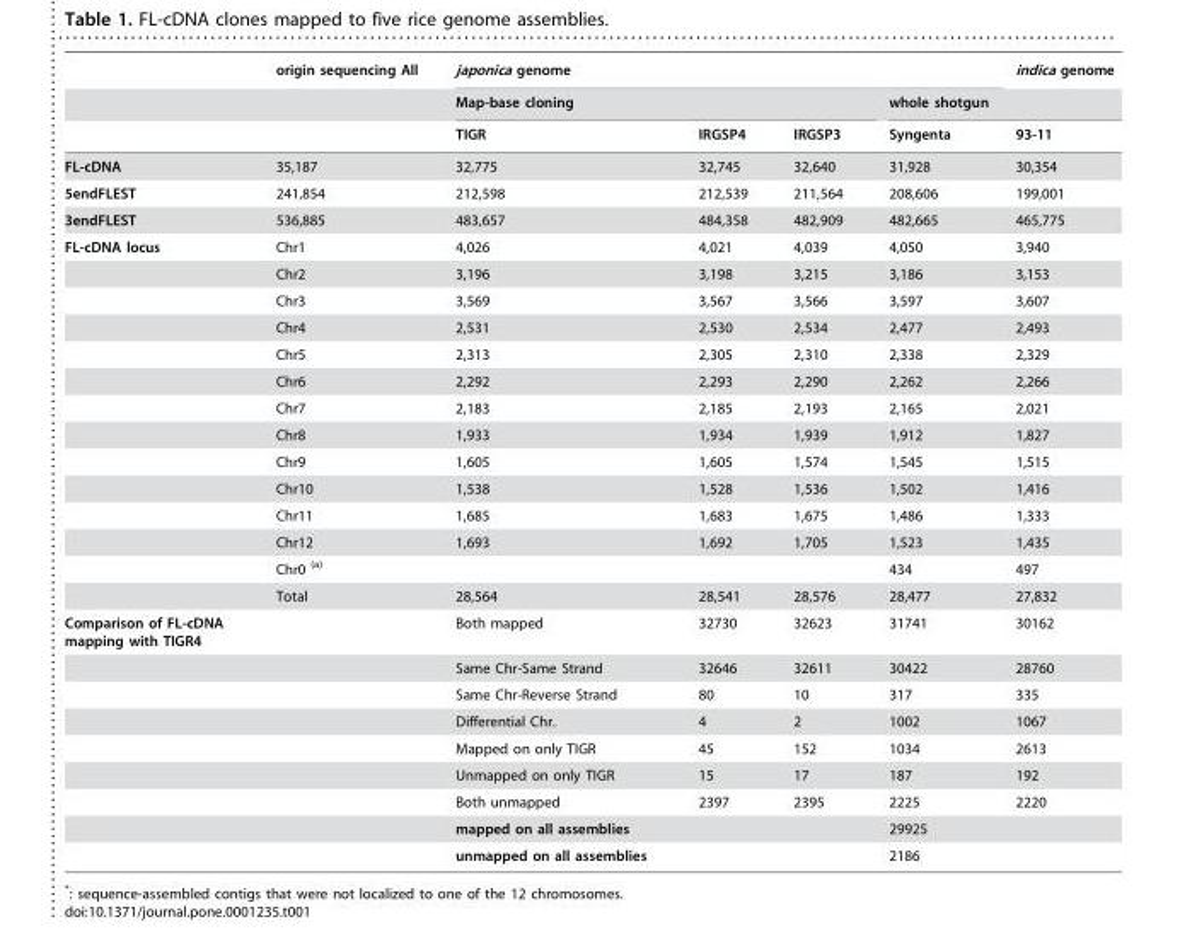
<table><thead><tr><td rowspan="3"></td><td rowspan="3">origin sequencing All</td><td colspan="4">japonica genome</td><td>indica genome</td></tr><tr><td colspan="3">Map-base cloning</td><td colspan="2">whole shotgun</td></tr><tr><td>TIGR</td><td>IRGSP4</td><td>IRGSP3</td><td>Syngenta</td><td>93-11</td></tr></thead><tbody><tr><td>FL-cDNA</td><td>35,187</td><td>32,775</td><td>32,745</td><td>32,640</td><td>31,928</td><td>30,354</td></tr><tr><td>5endFLEST</td><td>241,854</td><td>212,598</td><td>212,539</td><td>211,564</td><td>208,606</td><td>199,001</td></tr><tr><td>3endFLEST</td><td>536,885</td><td>483,657</td><td>484,358</td><td>482,909</td><td>482,665</td><td>465,775</td></tr><tr><td rowspan="14">FL-cDNA locus</td><td>Chr1</td><td>4,026</td><td>4,021</td><td>4,039</td><td>4,050</td><td>3,940</td></tr><tr><td>Chr2</td><td>3,196</td><td>3,198</td><td>3,215</td><td>3,186</td><td>3,153</td></tr><tr><td>Chr3</td><td>3,569</td><td>3,567</td><td>3,566</td><td>3,597</td><td>3,607</td></tr><tr><td>Chr4</td><td>2,531</td><td>2,530</td><td>2,534</td><td>2,477</td><td>2,493</td></tr><tr><td>Chr5</td><td>2,313</td><td>2,305</td><td>2,310</td><td>2,338</td><td>2,329</td></tr><tr><td>Chr6</td><td>2,292</td><td>2,293</td><td>2,290</td><td>2,262</td><td>2,266</td></tr><tr><td>Chr7</td><td>2,183</td><td>2,185</td><td>2,193</td><td>2,165</td><td>2,021</td></tr><tr><td>Chr8</td><td>1,933</td><td>1,934</td><td>1,939</td><td>1,912</td><td>1,827</td></tr><tr><td>Chr9</td><td>1,605</td><td>1,605</td><td>1,574</td><td>1,545</td><td>1,515</td></tr><tr><td>Chr10</td><td>1,538</td><td>1,528</td><td>1,536</td><td>1,502</td><td>1,416</td></tr><tr><td>Chr11</td><td>1,685</td><td>1,683</td><td>1,675</td><td>1,486</td><td>1,333</td></tr><tr><td>Chr12</td><td>1,693</td><td>1,692</td><td>1,705</td><td>1,523</td><td>1,435</td></tr><tr><td>Chr0 <sup>(a)</sup></td><td></td><td></td><td></td><td>434</td><td>497</td></tr><tr><td>Total</td><td>28,564</td><td>28,541</td><td>28,576</td><td>28,477</td><td>27,832</td></tr><tr><td rowspan="9">Comparison of FL-cDNA mapping with TIGR4</td><td></td><td>Both mapped</td><td>32730</td><td>32623</td><td>31741</td><td>30162</td></tr><tr><td></td><td>Same Chr-Same Strand</td><td>32646</td><td>32611</td><td>30422</td><td>28760</td></tr><tr><td></td><td>Same Chr-Reverse Strand</td><td>80</td><td>10</td><td>317</td><td>335</td></tr><tr><td></td><td>Differential Chr.</td><td>4</td><td>2</td><td>1002</td><td>1067</td></tr><tr><td></td><td>Mapped on only TIGR</td><td>45</td><td>152</td><td>1034</td><td>2613</td></tr><tr><td></td><td>Unmapped on only TIGR</td><td>15</td><td>17</td><td>187</td><td>192</td></tr><tr><td></td><td>Both unmapped</td><td>2397</td><td>2395</td><td>2225</td><td>2220</td></tr><tr><td></td><td colspan="3">mapped on all assemblies</td><td colspan="2">29925</td></tr><tr><td></td><td colspan="3">unmapped on all assemblies</td><td colspan="2">2186</td></tr></tbody></table>